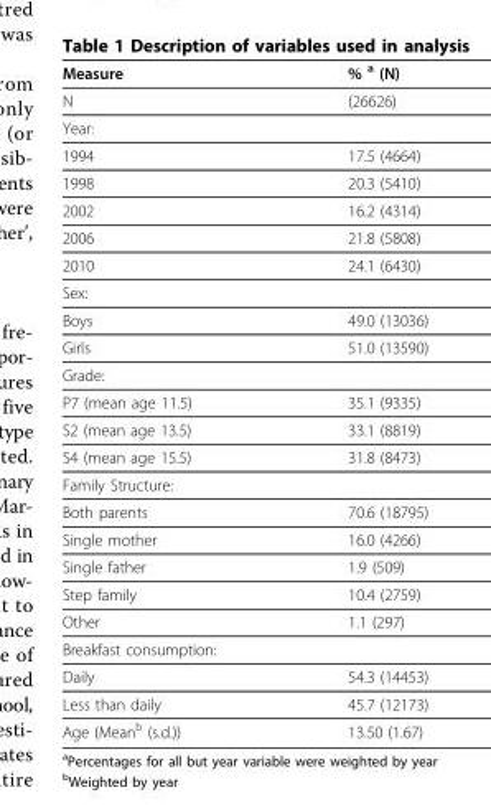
<table><thead><tr><td>Measure</td><td>% <sup>a</sup> (N)</td></tr></thead><tbody><tr><td>N</td><td>(26626)</td></tr><tr><td colspan="2">Year:</td></tr><tr><td>1994</td><td>17.5 (4664)</td></tr><tr><td>1998</td><td>20.3 (5410)</td></tr><tr><td>2002</td><td>16.2 (4314)</td></tr><tr><td>2006</td><td>21.8 (5808)</td></tr><tr><td>2010</td><td>24.1 (6430)</td></tr><tr><td colspan="2">Sex:</td></tr><tr><td>Boys</td><td>49.0 (13036)</td></tr><tr><td>Girls</td><td>51.0 (13590)</td></tr><tr><td colspan="2">Grade:</td></tr><tr><td>P7 (mean age 11.5)</td><td>35.1 (9335)</td></tr><tr><td>S2 (mean age 13.5)</td><td>33.1 (8819)</td></tr><tr><td>S4 (mean age 15.5)</td><td>31.8 (8473)</td></tr><tr><td colspan="2">Family Structure:</td></tr><tr><td>Both parents</td><td>70.6 (18795)</td></tr><tr><td>Single mother</td><td>16.0 (4266)</td></tr><tr><td>Single father</td><td>1.9 (509)</td></tr><tr><td>Step family</td><td>10.4 (2759)</td></tr><tr><td>Other</td><td>1.1 (297)</td></tr><tr><td colspan="2">Breakfast consumption:</td></tr><tr><td>Daily</td><td>54.3 (14453)</td></tr><tr><td>Less than daily</td><td>45.7 (12173)</td></tr><tr><td>Age (Mean<sup>b</sup> (s.d.))</td><td>13.50 (1.67)</td></tr></tbody></table>